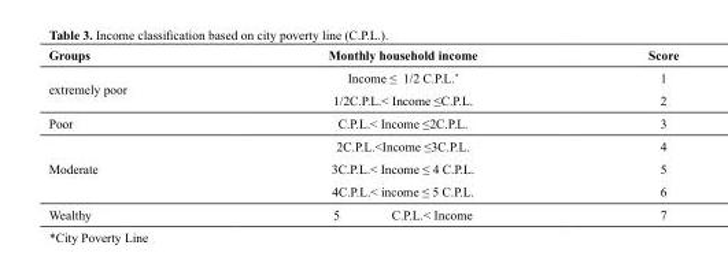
<table><thead><tr><td>Groups</td><td>Monthly household income</td><td>Score</td></tr></thead><tbody><tr><td rowspan="2">extremely poor</td><td>Income ≤ 1/2 C.P.L.*</td><td>1</td></tr><tr><td>1/2C.P.L.&lt; Income ≤C.P.L.</td><td>2</td></tr><tr><td>Poor</td><td>C.P.L.&lt; Income ≤2C.P.L.</td><td>3</td></tr><tr><td rowspan="3">Moderate</td><td>2C.P.L.&lt;Income ≤3C.P.L.</td><td>4</td></tr><tr><td>3C.P.L.&lt; Income ≤ 4 C.P.L.</td><td>5</td></tr><tr><td>4C.P.L.&lt; income ≤ 5 C.P.L.</td><td>6</td></tr><tr><td>Wealthy</td><td>5 C.P.L.&lt; Income</td><td>7</td></tr></tbody></table>